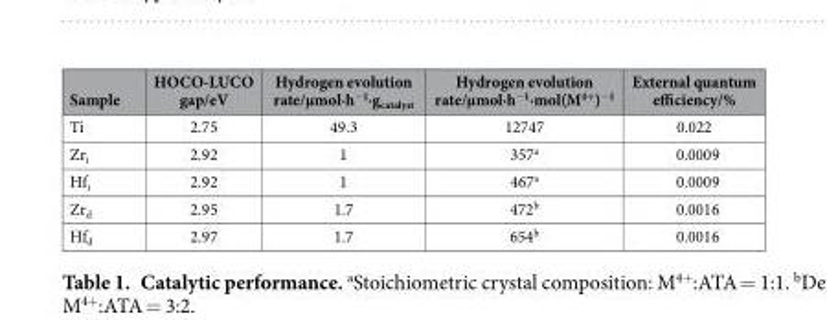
<table><thead><tr><td>Sample</td><td>HOCO-LUCO gap/eV</td><td>Hydrogen evolution rate/μmol·h<sup>−1</sup>·g<sub>catalyst</sub></td><td>Hydrogen evolution rate/μmol·h<sup>−1</sup>·mol(M<sup>4+</sup>)<sup>−1</sup></td><td>External quantum efficiency/%</td></tr></thead><tbody><tr><td>Ti</td><td>2.75</td><td>49.3</td><td>12747</td><td>0.022</td></tr><tr><td>Zr<sub>i</sub></td><td>2.92</td><td>1</td><td>357<sup>a</sup></td><td>0.0009</td></tr><tr><td>Hf<sub>i</sub></td><td>2.92</td><td>1</td><td>467<sup>a</sup></td><td>0.0009</td></tr><tr><td>Zr<sub>d</sub></td><td>2.95</td><td>1.7</td><td>472<sup>b</sup></td><td>0.0016</td></tr><tr><td>Hf<sub>d</sub></td><td>2.97</td><td>1.7</td><td>654<sup>b</sup></td><td>0.0016</td></tr></tbody></table>